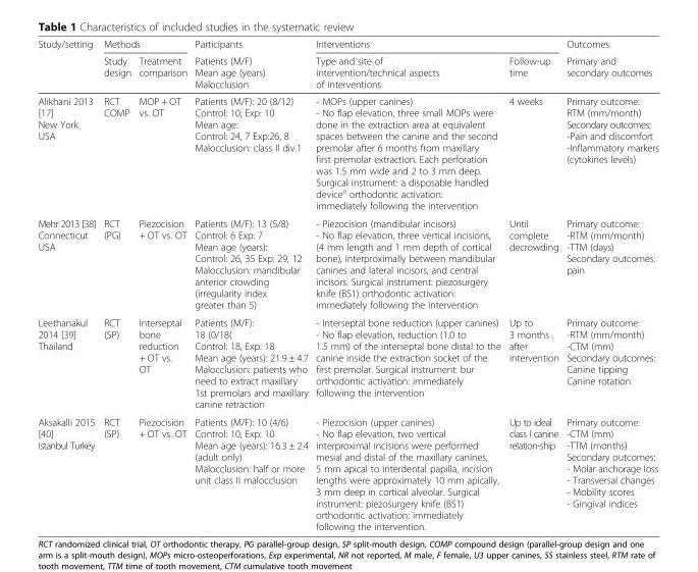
<table><thead><tr><td rowspan="2">Study/setting</td><td colspan="2">Methods</td><td rowspan="2">Participants Patients (M/F) Mean age (years) Malocclusion</td><td colspan="2">Interventions</td><td rowspan="2">Outcomes Primary and secondary outcomes</td></tr><tr><td>Study design</td><td>Treatment comparison</td><td>Type and site of intervention/technical aspects of interventions</td><td>Follow-up time</td></tr></thead><tbody><tr><td>Alikhani 2013 [17] New York USA</td><td>RCT COMP</td><td>MOP + OT vs. OT</td><td>Patients (M/F): 20 (8/12) Control: 10, Exp: 10 Mean age: Control: 24, 7 Exp:26, 8 Malocclusion: class II div.1</td><td>- MOPs (upper canines) - No flap elevation, three small MOPs were done in the extraction area at equivalent spaces between the canine and the second premolar after 6 months from maxillary first premolar extraction. Each perforation was 1.5 mm wide and 2 to 3 mm deep. Surgical instrument: a disposable handled device<sup>a</sup> orthodontic activation: immediately following the intervention</td><td>4 weeks</td><td>Primary outcome: RTM (mm/month) Secondary outcomes: -Pain and discomfort -Inflammatory markers (cytokines levels)</td></tr><tr><td>Mehr 2013 [38] Connecticut USA</td><td>RCT (PG)</td><td>Piezocision + OT vs. OT</td><td>Patients (M/F): 13 (5/8) Control: 6 Exp: 7 Mean age (years): Control: 26, 35 Exp: 29, 12 Malocclusion: mandibular anterior crowding (irregularity index greater than 5)</td><td>- Piezocision (mandibular incisors) - No flap elevation, three vertical incisions, (4 mm length and 1 mm depth of cortical bone), interproximally between mandibular canines and lateral incisors, and central incisors. Surgical instrument: piezosurgery knife (BS1) orthodontic activation: immediately following the intervention</td><td>Until complete decrowding</td><td>Primary outcome: -RTM (mm/month) -TTM (days) Secondary outcomes: pain</td></tr><tr><td>Leethanakul 2014 [39] Thailand</td><td>RCT (SP)</td><td>Interseptal bone reduction + OT vs. OT</td><td>Patients (M/F): 18 (0/18( Control: 18, Exp: 18 Mean age (years): 21.9 ± 4.7 Malocclusion: patients who need to extract maxillary 1st premolars and maxillary canine retraction</td><td>- Interseptal bone reduction (upper canines) - No flap elevation, reduction (1.0 to 1.5 mm) of the interseptal bone distal to the canine inside the extraction socket of the first premolar. Surgical instrument: bur orthodontic activation: immediately following the intervention</td><td>Up to 3 months after intervention</td><td>Primary outcome: -RTM (mm/month) -CTM (mm) Secondary outcomes: Canine tipping Canine rotation</td></tr><tr><td>Aksakalli 2015 [40] Istanbul Turkey</td><td>RCT (SP)</td><td>Piezocision + OT vs. OT</td><td>Patients (M/F): 10 (4/6) Control: 10, Exp: 10 Mean age (years): 16.3 ± 2.4 (adult only) Malocclusion: half or more unit class II malocclusion</td><td>- Piezocision (upper canines) - No flap elevation, two vertical interproximal incisions were performed mesial and distal of the maxillary canines, 5 mm apical to interdental papilla, incision lengths were approximately 10 mm apically, 3 mm deep in cortical alveolar. Surgical instrument: piezosurgery knife (BS1) orthodontic activation: immediately following the intervention.</td><td>Up to ideal class I canine relation-ship</td><td>Primary outcome: -CTM (mm) -TTM (months) Secondary outcomes: - Molar anchorage loss - Transversal changes - Mobility scores - Gingival indices</td></tr></tbody></table>